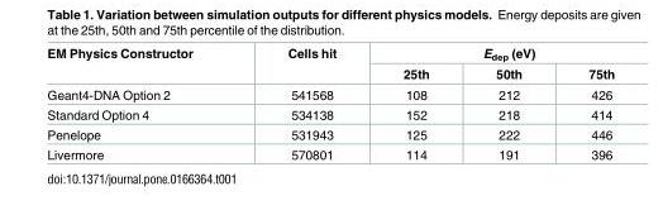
<table><thead><tr><td rowspan="2">EM Physics Constructor</td><td rowspan="2">Cells hit</td><td colspan="3">E<sub>dep</sub> (eV)</td></tr><tr><td>25th</td><td>50th</td><td>75th</td></tr></thead><tbody><tr><td>Geant4-DNA Option 2</td><td>541568</td><td>108</td><td>212</td><td>426</td></tr><tr><td>Standard Option 4</td><td>534138</td><td>152</td><td>218</td><td>414</td></tr><tr><td>Penelope</td><td>531943</td><td>125</td><td>222</td><td>446</td></tr><tr><td>Livermore</td><td>570801</td><td>114</td><td>191</td><td>396</td></tr></tbody></table>